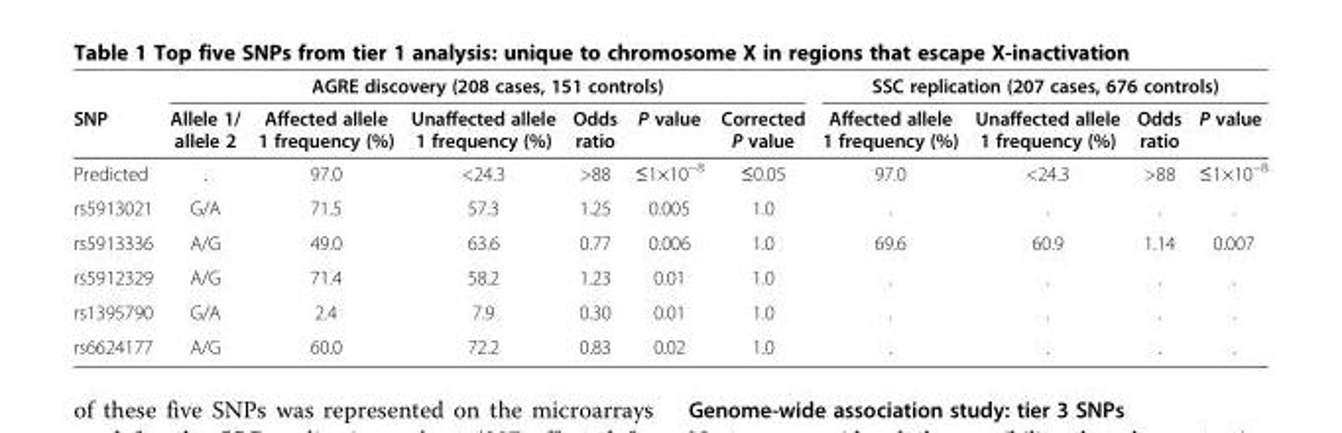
<table><thead><tr><td rowspan="2">SNP</td><td colspan="6">AGRE discovery (208 cases, 151 controls)</td><td colspan="4">SSC replication (207 cases, 676 controls)</td></tr><tr><td>Allele 1/ allele 2</td><td>Affected allele 1 frequency (%)</td><td>Unaffected allele 1 frequency (%)</td><td>Odds ratio</td><td>P value</td><td>Corrected P value</td><td>Affected allele 1 frequency (%)</td><td>Unaffected allele 1 frequency (%)</td><td>Odds ratio</td><td>P value</td></tr></thead><tbody><tr><td>Predicted</td><td>.</td><td>97.0</td><td>&lt;24.3</td><td>&gt;88</td><td>≤1×10<sup>−8</sup></td><td>≤0.05</td><td>97.0</td><td>&lt;24.3</td><td>&gt;88</td><td>≤1×10<sup>−8</sup></td></tr><tr><td>rs5913021</td><td>G/A</td><td>71.5</td><td>57.3</td><td>1.25</td><td>0.005</td><td>1.0</td><td>.</td><td>.</td><td>.</td><td>.</td></tr><tr><td>rs5913336</td><td>A/G</td><td>49.0</td><td>63.6</td><td>0.77</td><td>0.006</td><td>1.0</td><td>69.6</td><td>60.9</td><td>1.14</td><td>0.007</td></tr><tr><td>rs5912329</td><td>A/G</td><td>71.4</td><td>58.2</td><td>1.23</td><td>0.01</td><td>1.0</td><td>.</td><td>.</td><td>.</td><td>.</td></tr><tr><td>rs1395790</td><td>G/A</td><td>2.4</td><td>7.9</td><td>0.30</td><td>0.01</td><td>1.0</td><td>.</td><td>.</td><td>.</td><td>.</td></tr><tr><td>rs6624177</td><td>A/G</td><td>60.0</td><td>72.2</td><td>0.83</td><td>0.02</td><td>1.0</td><td>.</td><td>.</td><td>.</td><td>.</td></tr></tbody></table>